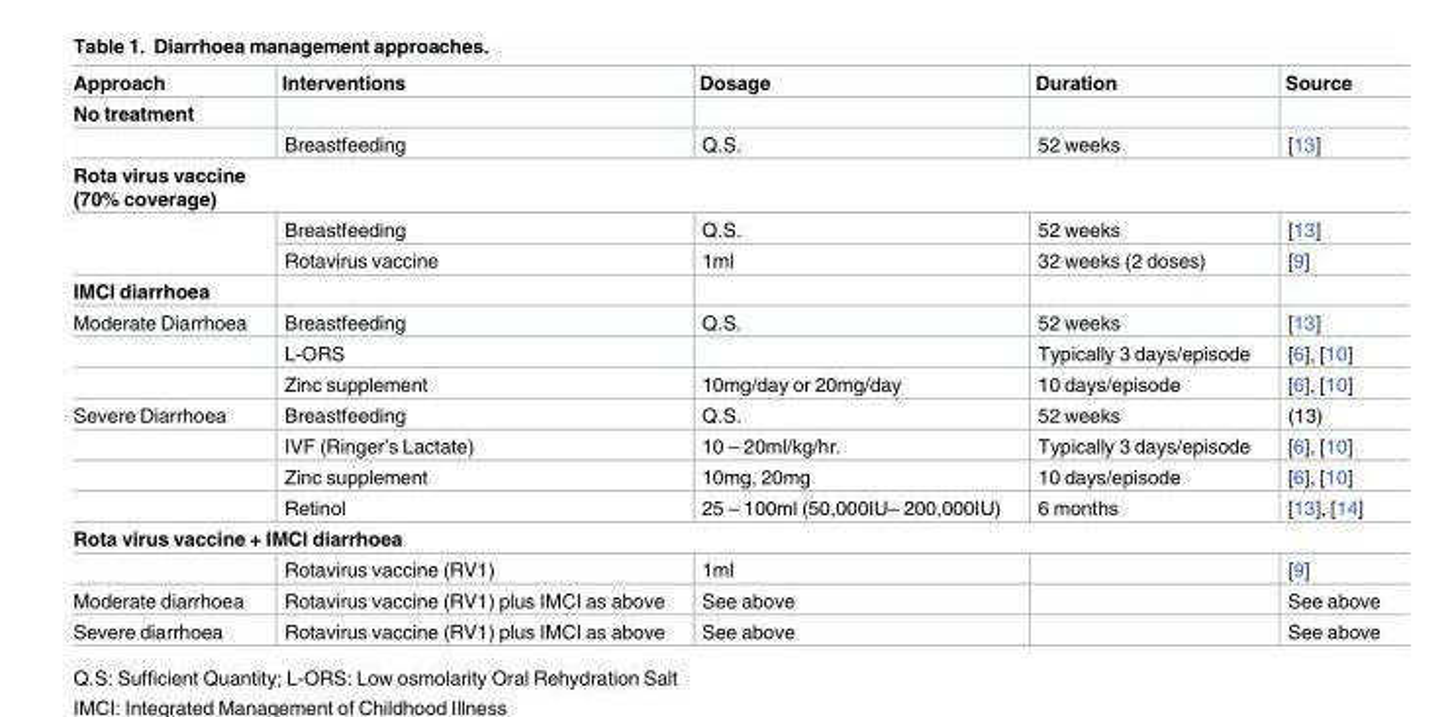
<table><thead><tr><td>Approach</td><td>Interventions</td><td>Dosage</td><td>Duration</td><td>Source</td></tr></thead><tbody><tr><td colspan="5">No treatment</td></tr><tr><td></td><td>Breastfeeding</td><td>Q.S.</td><td>52 weeks</td><td>[13]</td></tr><tr><td colspan="5">Rota virus vaccine (70% coverage)</td></tr><tr><td rowspan="2"></td><td>Breastfeeding</td><td>Q.S.</td><td>52 weeks</td><td>[13]</td></tr><tr><td>Rotavirus vaccine</td><td>1ml</td><td>32 weeks (2 doses)</td><td>[9]</td></tr><tr><td colspan="5">IMCI diarrhoea</td></tr><tr><td rowspan="3">Moderate Diarrhoea</td><td>Breastfeeding</td><td>Q.S.</td><td>52 weeks</td><td>[13]</td></tr><tr><td>L-ORS</td><td></td><td>Typically 3 days/episode</td><td>[6], [10]</td></tr><tr><td>Zinc supplement</td><td>10mg/day or 20mg/day</td><td>10 days/episode</td><td>[6], [10]</td></tr><tr><td rowspan="4">Severe Diarrhoea</td><td>Breastfeeding</td><td>Q.S.</td><td>52 weeks</td><td>(13)</td></tr><tr><td>IVF (Ringer’s Lactate)</td><td>10 – 20ml/kg/hr.</td><td>Typically 3 days/episode</td><td>[6], [10]</td></tr><tr><td>Zinc supplement</td><td>10mg, 20mg</td><td>10 days/episode</td><td>[6], [10]</td></tr><tr><td>Retinol</td><td>25 – 100ml (50,000IU– 200,000IU)</td><td>6 months</td><td>[13], [14]</td></tr><tr><td colspan="5">Rota virus vaccine + IMCI diarrhoea</td></tr><tr><td></td><td>Rotavirus vaccine (RV1)</td><td>1ml</td><td></td><td>[9]</td></tr><tr><td>Moderate diarrhoea</td><td>Rotavirus vaccine (RV1) plus IMCI as above</td><td>See above</td><td></td><td>See above</td></tr><tr><td>Severe diarrhoea</td><td>Rotavirus vaccine (RV1) plus IMCI as above</td><td>See above</td><td></td><td>See above</td></tr></tbody></table>